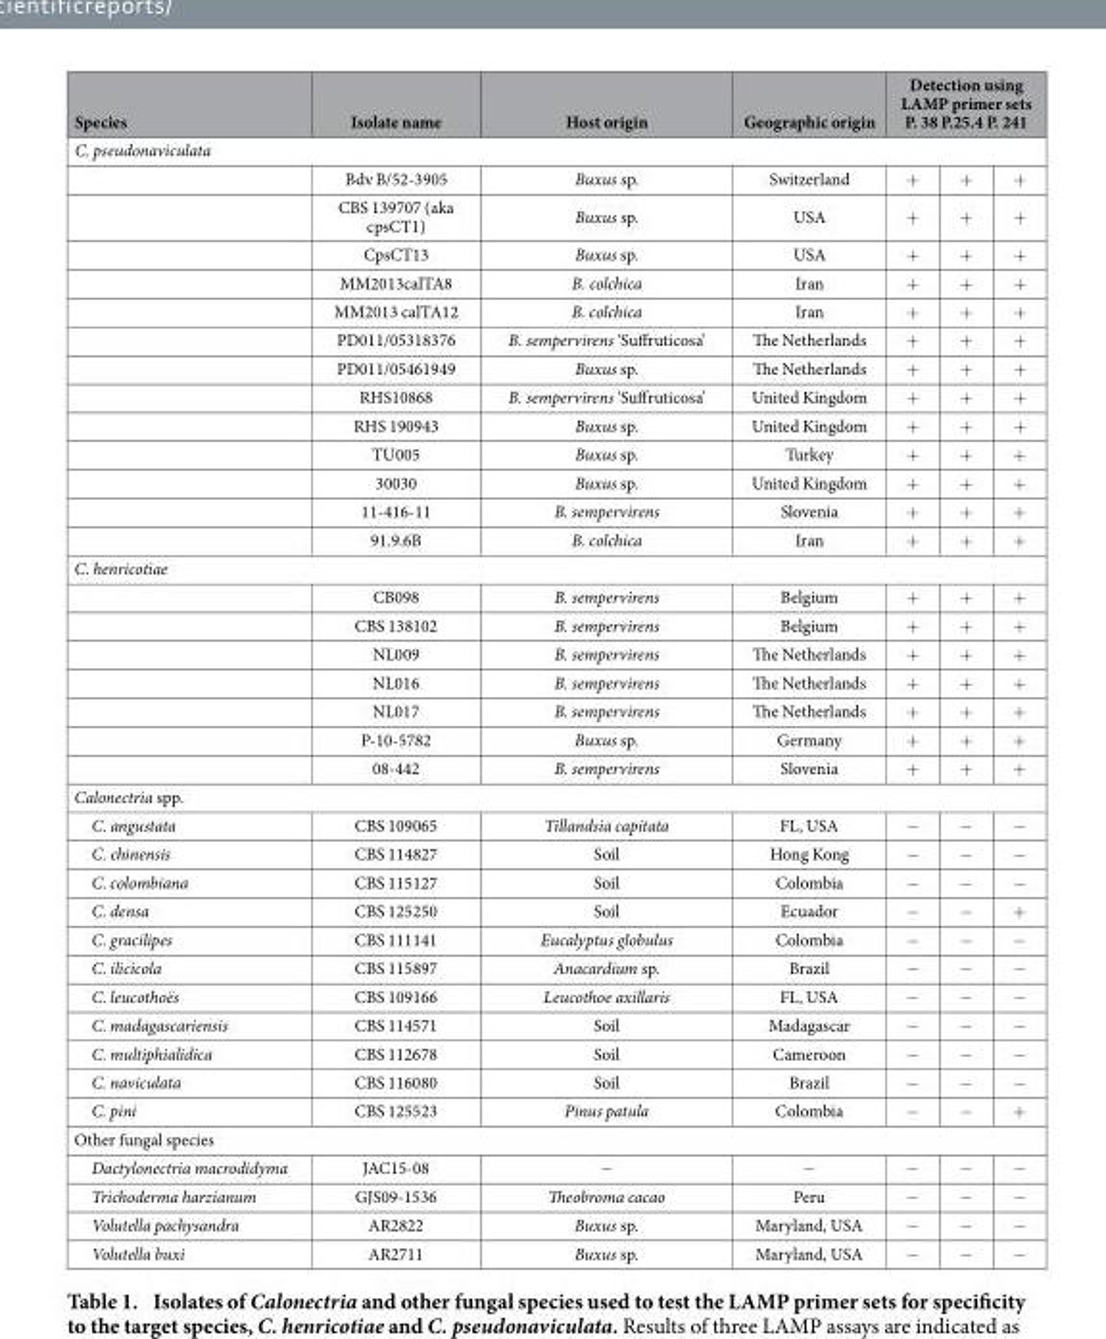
<table><thead><tr><td>Species</td><td>Isolate name</td><td>Host origin</td><td>Geographic origin</td><td colspan="3">Detection using LAMP primer sets P. 38 P.25.4 P. 241</td></tr><tr><td colspan="7">C. pseudonaviculata</td></tr><tr><td></td><td>Bdv B/52-3905</td><td>Buxus sp.</td><td>Switzerland</td><td>+</td><td>+</td><td>+</td></tr></thead><tbody><tr><td></td><td>CBS 139707 (aka cpsCT1)</td><td>Buxus sp.</td><td>USA</td><td>+</td><td>+</td><td>+</td></tr><tr><td></td><td>CpsCT13</td><td>Buxus sp.</td><td>USA</td><td>+</td><td>+</td><td>+</td></tr><tr><td></td><td>MM2013calTA8</td><td>B. colchica</td><td>Iran</td><td>+</td><td>+</td><td>+</td></tr><tr><td></td><td>MM2013 calTA12</td><td>B. colchica</td><td>Iran</td><td>+</td><td>+</td><td>+</td></tr><tr><td></td><td>PD011/05318376</td><td>B. sempervirens ‘Suffruticosa’</td><td>The Netherlands</td><td>+</td><td>+</td><td>+</td></tr><tr><td></td><td>PD011/05461949</td><td>Buxus sp.</td><td>The Netherlands</td><td>+</td><td>+</td><td>+</td></tr><tr><td></td><td>RHS10868</td><td>B. sempervirens ‘Suffruticosa’</td><td>United Kingdom</td><td>+</td><td>+</td><td>+</td></tr><tr><td></td><td>RHS 190943</td><td>Buxus sp.</td><td>United Kingdom</td><td>+</td><td>+</td><td>+</td></tr><tr><td></td><td>TU005</td><td>Buxus sp.</td><td>Turkey</td><td>+</td><td>+</td><td>+</td></tr><tr><td></td><td>30030</td><td>Buxus sp.</td><td>United Kingdom</td><td>+</td><td>+</td><td>+</td></tr><tr><td></td><td>11-416-11</td><td>B. sempervirens</td><td>Slovenia</td><td>+</td><td>+</td><td>+</td></tr><tr><td></td><td>91.9.6B</td><td>B. colchica</td><td>Iran</td><td>+</td><td>+</td><td>+</td></tr><tr><td colspan="7">C. henricotiae</td></tr><tr><td></td><td>CB098</td><td>B. sempervirens</td><td>Belgium</td><td>+</td><td>+</td><td>+</td></tr><tr><td></td><td>CBS 138102</td><td>B. sempervirens</td><td>Belgium</td><td>+</td><td>+</td><td>+</td></tr><tr><td></td><td>NL009</td><td>B. sempervirens</td><td>The Netherlands</td><td>+</td><td>+</td><td>+</td></tr><tr><td></td><td>NL016</td><td>B. sempervirens</td><td>The Netherlands</td><td>+</td><td>+</td><td>+</td></tr><tr><td></td><td>NL017</td><td>B. sempervirens</td><td>The Netherlands</td><td>+</td><td>+</td><td>+</td></tr><tr><td></td><td>P-10-5782</td><td>Buxus sp.</td><td>Germany</td><td>+</td><td>+</td><td>+</td></tr><tr><td></td><td>08-442</td><td>B. sempervirens</td><td>Slovenia</td><td>+</td><td>+</td><td>+</td></tr><tr><td colspan="7">Calonectria spp.</td></tr><tr><td>C. angustata</td><td>CBS 109065</td><td>Tillandsia capitata</td><td>FL, USA</td><td>−</td><td>−</td><td>−</td></tr><tr><td>C. chinensis</td><td>CBS 114827</td><td>Soil</td><td>Hong Kong</td><td>−</td><td>−</td><td>−</td></tr><tr><td>C. colombiana</td><td>CBS 115127</td><td>Soil</td><td>Colombia</td><td>−</td><td>−</td><td>−</td></tr><tr><td>C. densa</td><td>CBS 125250</td><td>Soil</td><td>Ecuador</td><td>−</td><td>−</td><td>+</td></tr><tr><td>C. gracilipes</td><td>CBS 111141</td><td>Eucalyptus globulus</td><td>Colombia</td><td>−</td><td>−</td><td>−</td></tr><tr><td>C. ilicicola</td><td>CBS 115897</td><td>Anacardium sp.</td><td>Brazil</td><td>−</td><td>−</td><td>−</td></tr><tr><td>C. leucothoës</td><td>CBS 109166</td><td>Leucothoe axillaris</td><td>FL, USA</td><td>−</td><td>−</td><td>−</td></tr><tr><td>C. madagascariensis</td><td>CBS 114571</td><td>Soil</td><td>Madagascar</td><td>−</td><td>−</td><td>−</td></tr><tr><td>C. multiphialidica</td><td>CBS 112678</td><td>Soil</td><td>Cameroon</td><td>−</td><td>−</td><td>−</td></tr><tr><td>C. naviculata</td><td>CBS 116080</td><td>Soil</td><td>Brazil</td><td>−</td><td>−</td><td>−</td></tr><tr><td>C. pini</td><td>CBS 125523</td><td>Pinus patula</td><td>Colombia</td><td>−</td><td>−</td><td>+</td></tr><tr><td colspan="7">Other fungal species</td></tr><tr><td>Dactylonectria macrodidyma</td><td>JAC15-08</td><td>−</td><td>−</td><td>−</td><td>−</td><td>−</td></tr><tr><td>Trichoderma harzianum</td><td>GJS09-1536</td><td>Theobroma cacao</td><td>Peru</td><td>−</td><td>−</td><td>−</td></tr><tr><td>Volutella pachysandra</td><td>AR2822</td><td>Buxus sp.</td><td>Maryland, USA</td><td>−</td><td>−</td><td>−</td></tr><tr><td>Volutella buxi</td><td>AR2711</td><td>Buxus sp.</td><td>Maryland, USA</td><td>−</td><td>−</td><td>−</td></tr></tbody></table>